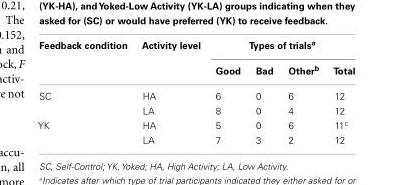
<table><thead><tr><td rowspan="2">Feedback condition</td><td rowspan="2">Activity level</td><td colspan="4">Types of trials<sup>a</sup></td></tr><tr><td>Good</td><td>Bad</td><td>Other<sup>b</sup></td><td>Total</td></tr></thead><tbody><tr><td rowspan="2">SC</td><td>HA</td><td>6</td><td>0</td><td>6</td><td>12</td></tr><tr><td>LA</td><td>8</td><td>0</td><td>4</td><td>12</td></tr><tr><td rowspan="2">YK</td><td>HA</td><td>5</td><td>0</td><td>6</td><td>11<sup>c</sup></td></tr><tr><td>LA</td><td>7</td><td>3</td><td>2</td><td>12</td></tr></tbody></table>